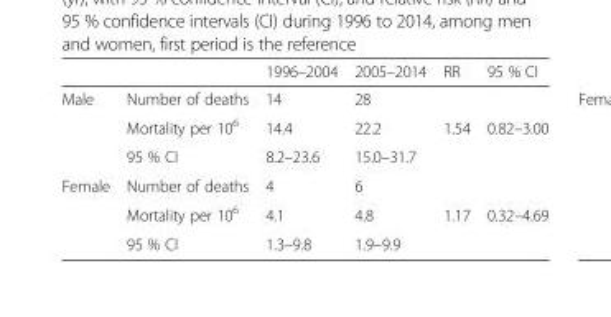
<table><thead><tr><td></td><td></td><td>1996–2004</td><td>2005–2014</td><td>RR</td><td>95 % CI</td></tr></thead><tbody><tr><td rowspan="3">Male</td><td>Number of deaths</td><td>14</td><td>28</td><td></td><td></td></tr><tr><td>Mortality per 10<sup>6</sup></td><td>14.4</td><td>22.2</td><td>1.54</td><td>0.82–3.00</td></tr><tr><td>95 % CI</td><td>8.2–23.6</td><td>15.0–31.7</td><td></td><td></td></tr><tr><td rowspan="3">Female</td><td>Number of deaths</td><td>4</td><td>6</td><td></td><td></td></tr><tr><td>Mortality per 10<sup>6</sup></td><td>4.1</td><td>4.8</td><td>1.17</td><td>0.32–4.69</td></tr><tr><td>95 % CI</td><td>1.3–9.8</td><td>1.9–9.9</td><td></td><td></td></tr></tbody></table>